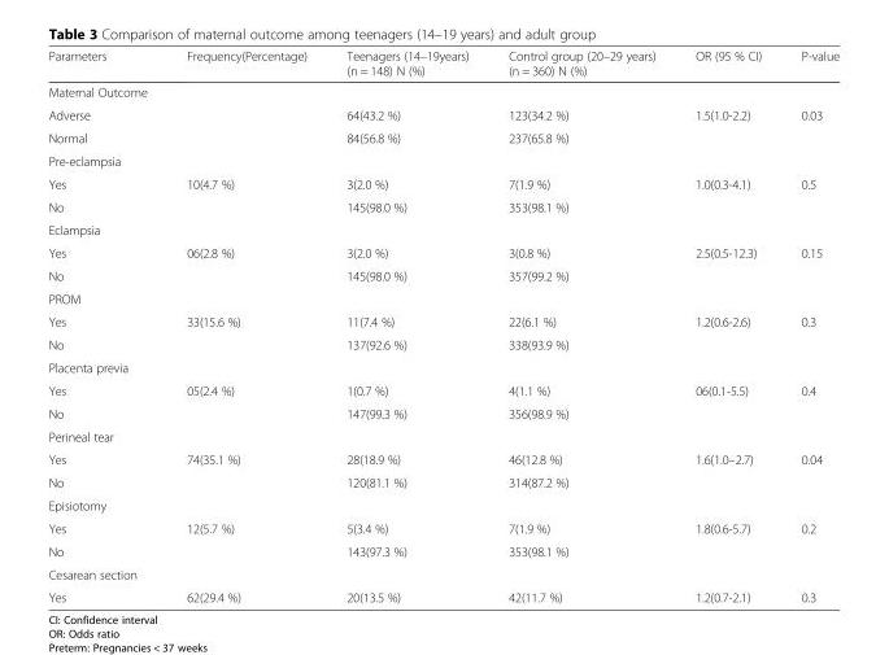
<table><thead><tr><td>Parameters</td><td>Frequency(Percentage)</td><td>Teenagers (14–19years) (n = 148) N (%)</td><td>Control group (20–29 years) (n = 360) N (%)</td><td>OR (95 % CI)</td><td>P-value</td></tr></thead><tbody><tr><td colspan="6">Maternal Outcome</td></tr><tr><td>Adverse</td><td></td><td>64(43.2 %)</td><td>123(34.2 %)</td><td>1.5(1.0-2.2)</td><td>0.03</td></tr><tr><td>Normal</td><td></td><td>84(56.8 %)</td><td>237(65.8 %)</td><td></td><td></td></tr><tr><td colspan="6">Pre-eclampsia</td></tr><tr><td>Yes</td><td>10(4.7 %)</td><td>3(2.0 %)</td><td>7(1.9 %)</td><td>1.0(0.3-4.1)</td><td>0.5</td></tr><tr><td>No</td><td></td><td>145(98.0 %)</td><td>353(98.1 %)</td><td></td><td></td></tr><tr><td colspan="6">Eclampsia</td></tr><tr><td>Yes</td><td>06(2.8 %)</td><td>3(2.0 %)</td><td>3(0.8 %)</td><td>2.5(0.5-12.3)</td><td>0.15</td></tr><tr><td>No</td><td></td><td>145(98.0 %)</td><td>357(99.2 %)</td><td></td><td></td></tr><tr><td colspan="6">PROM</td></tr><tr><td>Yes</td><td>33(15.6 %)</td><td>11(7.4 %)</td><td>22(6.1 %)</td><td>1.2(0.6-2.6)</td><td>0.3</td></tr><tr><td>No</td><td></td><td>137(92.6 %)</td><td>338(93.9 %)</td><td></td><td></td></tr><tr><td colspan="6">Placenta previa</td></tr><tr><td>Yes</td><td>05(2.4 %)</td><td>1(0.7 %)</td><td>4(1.1 %)</td><td>06(0.1-5.5)</td><td>0.4</td></tr><tr><td>No</td><td></td><td>147(99.3 %)</td><td>356(98.9 %)</td><td></td><td></td></tr><tr><td colspan="6">Perineal tear</td></tr><tr><td>Yes</td><td>74(35.1 %)</td><td>28(18.9 %)</td><td>46(12.8 %)</td><td>1.6(1.0–2.7)</td><td>0.04</td></tr><tr><td>No</td><td></td><td>120(81.1 %)</td><td>314(87.2 %)</td><td></td><td></td></tr><tr><td colspan="6">Episiotomy</td></tr><tr><td>Yes</td><td>12(5.7 %)</td><td>5(3.4 %)</td><td>7(1.9 %)</td><td>1.8(0.6-5.7)</td><td>0.2</td></tr><tr><td>No</td><td></td><td>143(97.3 %)</td><td>353(98.1 %)</td><td></td><td></td></tr><tr><td colspan="6">Cesarean section</td></tr><tr><td>Yes</td><td>62(29.4 %)</td><td>20(13.5 %)</td><td>42(11.7 %)</td><td>1.2(0.7-2.1)</td><td>0.3</td></tr></tbody></table>